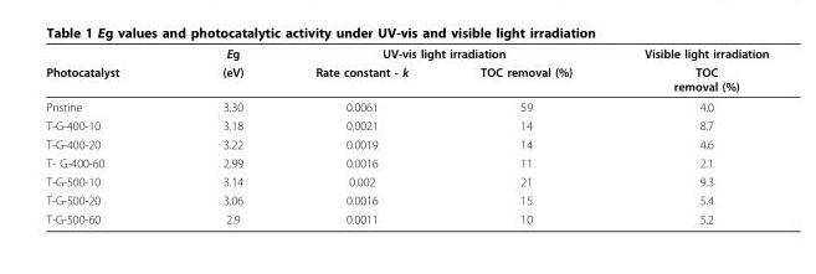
<table><thead><tr><td rowspan="2">Photocatalyst</td><td rowspan="2">Eg (eV)</td><td colspan="2">UV-vis light irradiation</td><td rowspan="2">Visible light irradiation TOC removal (%)</td></tr><tr><td>Rate constant - k</td><td>TOC removal (%)</td></tr></thead><tbody><tr><td>Pristine</td><td>3.30</td><td>0.0061</td><td>59</td><td>4.0</td></tr><tr><td>T-G-400-10</td><td>3.18</td><td>0.0021</td><td>14</td><td>8.7</td></tr><tr><td>T-G-400-20</td><td>3.22</td><td>0.0019</td><td>14</td><td>4.6</td></tr><tr><td>T- G-400-60</td><td>2.99</td><td>0.0016</td><td>11</td><td>2.1</td></tr><tr><td>T-G-500-10</td><td>3.14</td><td>0.002</td><td>21</td><td>9.3</td></tr><tr><td>T-G-500-20</td><td>3.06</td><td>0.0016</td><td>15</td><td>5.4</td></tr><tr><td>T-G-500-60</td><td>2.9</td><td>0.0011</td><td>10</td><td>5.2</td></tr></tbody></table>